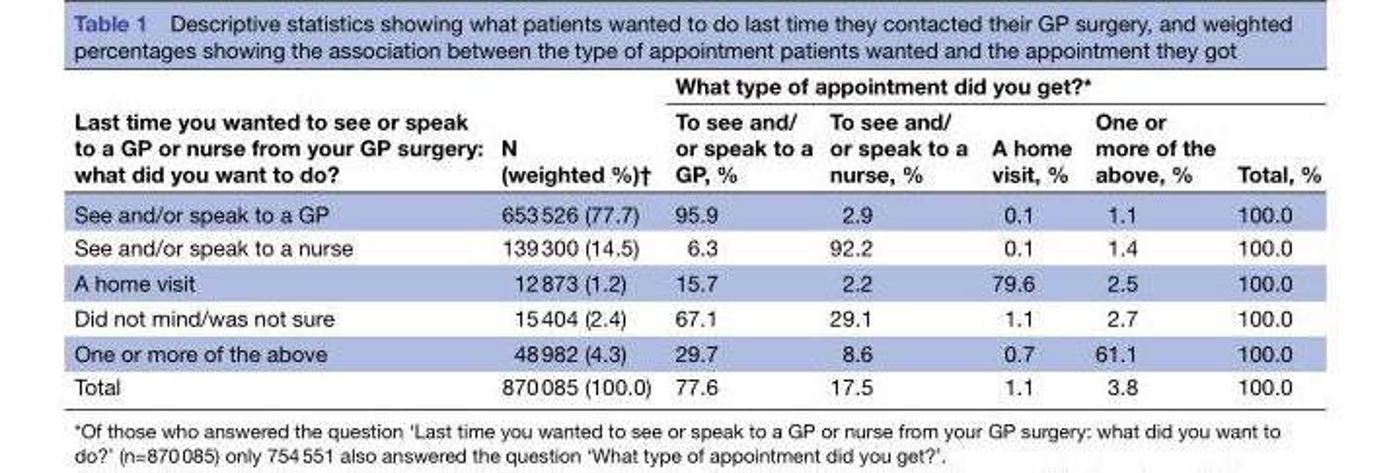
<table><thead><tr><td rowspan="2">Last time you wanted to see or speak to a GP or nurse from your GP surgery: what did you want to do?</td><td rowspan="2">N (weighted %)†</td><td colspan="5">What type of appointment did you get?*</td></tr><tr><td>To see and/ or speak to a GP, %</td><td>To see and/ or speak to a nurse, %</td><td>A home visit, %</td><td>One or more of the above, %</td><td>Total, %</td></tr></thead><tbody><tr><td>See and/or speak to a GP</td><td>653 526 (77.7)</td><td>95.9</td><td>2.9</td><td>0.1</td><td>1.1</td><td>100.0</td></tr><tr><td>See and/or speak to a nurse</td><td>139 300 (14.5)</td><td>6.3</td><td>92.2</td><td>0.1</td><td>1.4</td><td>100.0</td></tr><tr><td>A home visit</td><td>12 873 (1.2)</td><td>15.7</td><td>2.2</td><td>79.6</td><td>2.5</td><td>100.0</td></tr><tr><td>Did not mind/was not sure</td><td>15 404 (2.4)</td><td>67.1</td><td>29.1</td><td>1.1</td><td>2.7</td><td>100.0</td></tr><tr><td>One or more of the above</td><td>48 982 (4.3)</td><td>29.7</td><td>8.6</td><td>0.7</td><td>61.1</td><td>100.0</td></tr><tr><td>Total</td><td>870 085 (100.0)</td><td>77.6</td><td>17.5</td><td>1.1</td><td>3.8</td><td>100.0</td></tr></tbody></table>